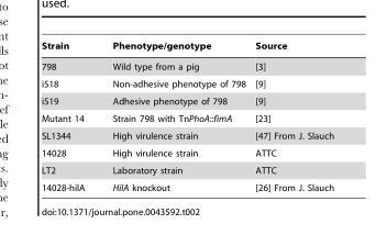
<table><thead><tr><td>Strain</td><td>Phenotype/genotype</td><td>Source</td></tr></thead><tbody><tr><td>798</td><td>Wild type from a pig</td><td>[3]</td></tr><tr><td>i518</td><td>Non-adhesive phenotype of 798</td><td>[9]</td></tr><tr><td>i519</td><td>Adhesive phenotype of 798</td><td>[9]</td></tr><tr><td>Mutant 14</td><td>Strain 798 with TnPhoA::fimA</td><td>[23]</td></tr><tr><td>SL1344</td><td>High virulence strain</td><td>[47] From J. Slauch</td></tr><tr><td>14028</td><td>High virulence strain</td><td>ATTC</td></tr><tr><td>LT2</td><td>Laboratory strain</td><td>ATTC</td></tr><tr><td>14028-hilA</td><td>HilA knockout</td><td>[26] From J. Slauch</td></tr></tbody></table>